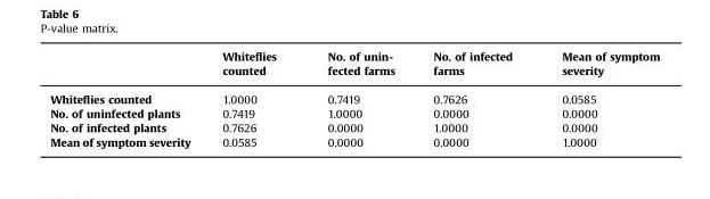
<table><thead><tr><td></td><td>Whiteflies counted</td><td>No. of unin- fected farms</td><td>No. of infected farms</td><td>Mean of symptom severity</td></tr></thead><tbody><tr><td>Whiteflies counted</td><td>1.0000</td><td>0.7419</td><td>0.7626</td><td>0.0585</td></tr><tr><td>No. of uninfected plants</td><td>0.7419</td><td>1.0000</td><td>0.0000</td><td>0.0000</td></tr><tr><td>No. of infected plants</td><td>0.7626</td><td>0.0000</td><td>1.0000</td><td>0.0000</td></tr><tr><td>Mean of symptom severity</td><td>0.0585</td><td>0.0000</td><td>0.0000</td><td>1.0000</td></tr></tbody></table>